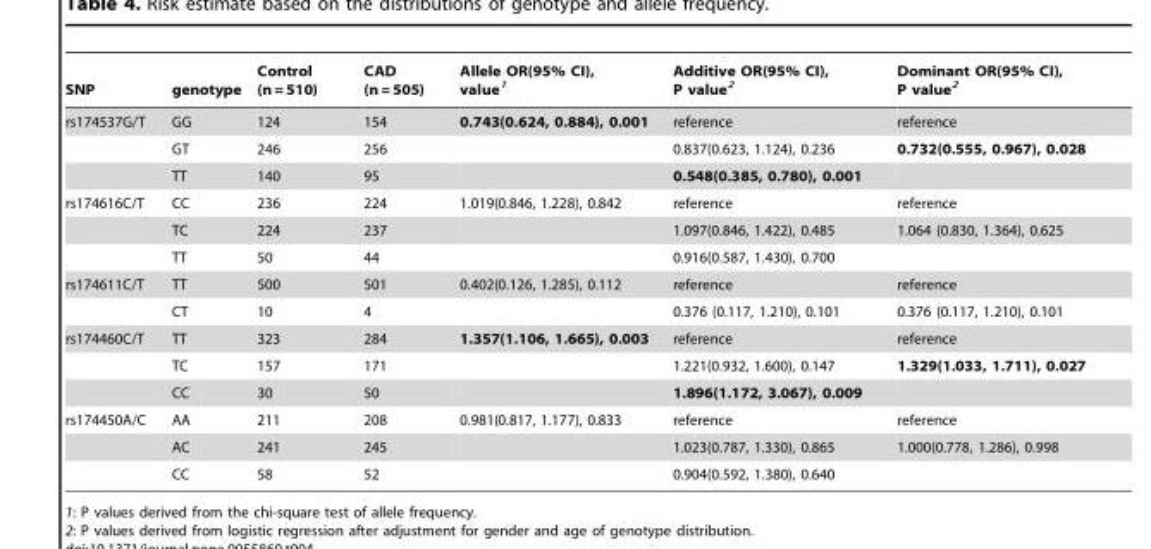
<table><thead><tr><td>SNP</td><td>genotype</td><td>Control (n = 510)</td><td>CAD (n = 505)</td><td>Allele OR(95% CI), value<sup>1</sup></td><td>Additive OR(95% CI), P value<sup>2</sup></td><td>Dominant OR(95% CI), P value<sup>2</sup></td></tr></thead><tbody><tr><td rowspan="3">rs174537G/T</td><td>GG</td><td>124</td><td>154</td><td>0.743(0.624, 0.884), 0.001</td><td>reference</td><td>reference</td></tr><tr><td>GT</td><td>246</td><td>256</td><td></td><td>0.837(0.623, 1.124), 0.236</td><td>0.732(0.555, 0.967), 0.028</td></tr><tr><td>TT</td><td>140</td><td>95</td><td></td><td>0.548(0.385, 0.780), 0.001</td><td></td></tr><tr><td rowspan="3">rs174616C/T</td><td>CC</td><td>236</td><td>224</td><td>1.019(0.846, 1.228), 0.842</td><td>reference</td><td>reference</td></tr><tr><td>TC</td><td>224</td><td>237</td><td></td><td>1.097(0.846, 1.422), 0.485</td><td>1.064 (0.830, 1.364), 0.625</td></tr><tr><td>TT</td><td>50</td><td>44</td><td></td><td>0.916(0.587, 1.430), 0.700</td><td></td></tr><tr><td rowspan="2">rs174611C/T</td><td>TT</td><td>500</td><td>501</td><td>0.402(0.126, 1.285), 0.112</td><td>reference</td><td>reference</td></tr><tr><td>CT</td><td>10</td><td>4</td><td></td><td>0.376 (0.117, 1.210), 0.101</td><td>0.376 (0.117, 1.210), 0.101</td></tr><tr><td rowspan="3">rs174460C/T</td><td>TT</td><td>323</td><td>284</td><td>1.357(1.106, 1.665), 0.003</td><td>reference</td><td>reference</td></tr><tr><td>TC</td><td>157</td><td>171</td><td></td><td>1.221(0.932, 1.600), 0.147</td><td>1.329(1.033, 1.711), 0.027</td></tr><tr><td>CC</td><td>30</td><td>50</td><td></td><td>1.896(1.172, 3.067), 0.009</td><td></td></tr><tr><td rowspan="3">rs174450A/C</td><td>AA</td><td>211</td><td>208</td><td>0.981(0.817, 1.177), 0.833</td><td>reference</td><td>reference</td></tr><tr><td>AC</td><td>241</td><td>245</td><td></td><td>1.023(0.787, 1.330), 0.865</td><td>1.000(0.778, 1.286), 0.998</td></tr><tr><td>CC</td><td>58</td><td>52</td><td></td><td>0.904(0.592, 1.380), 0.640</td><td></td></tr></tbody></table>